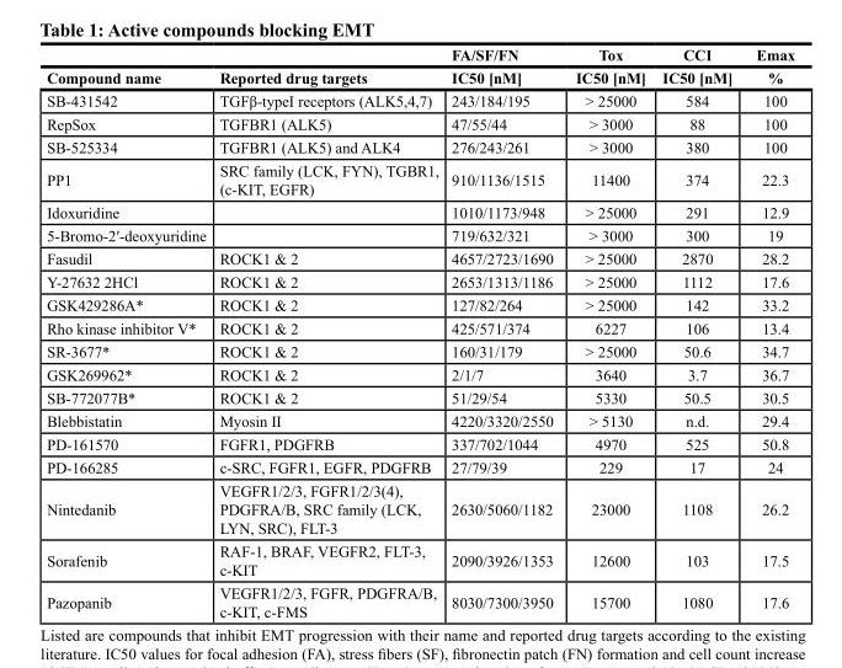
<table><thead><tr><td rowspan="2">Compound name</td><td rowspan="2">Reported drug targets</td><td rowspan="2">FA/SF/FN IC50 [nM]</td><td rowspan="2">Tox IC50 [nM]</td><td rowspan="2">CCI IC50 [nM]</td><td rowspan="2">Emax %</td></tr><tr></tr></thead><tbody><tr><td>SB-431542</td><td>TGFβ-typeI receptors (ALK5,4,7)</td><td>243/184/195</td><td>&gt; 25000</td><td>584</td><td>100</td></tr><tr><td>RepSox</td><td>TGFBR1 (ALK5)</td><td>47/55/44</td><td>&gt; 3000</td><td>88</td><td>100</td></tr><tr><td>SB-525334</td><td>TGFBR1 (ALK5) and ALK4</td><td>276/243/261</td><td>&gt; 3000</td><td>380</td><td>100</td></tr><tr><td>PP1</td><td>SRC family (LCK, FYN), TGBR1, (c-KIT, EGFR)</td><td>910/1136/1515</td><td>11400</td><td>374</td><td>22.3</td></tr><tr><td>Idoxuridine</td><td></td><td>1010/1173/948</td><td>&gt; 25000</td><td>291</td><td>12.9</td></tr><tr><td>5-Bromo-2′-deoxyuridine</td><td></td><td>719/632/321</td><td>&gt; 3000</td><td>300</td><td>19</td></tr><tr><td>Fasudil</td><td>ROCK1 &amp; 2</td><td>4657/2723/1690</td><td>&gt; 25000</td><td>2870</td><td>28.2</td></tr><tr><td>Y-27632 2HCl</td><td>ROCK1 &amp; 2</td><td>2653/1313/1186</td><td>&gt; 25000</td><td>1112</td><td>17.6</td></tr><tr><td>GSK429286A*</td><td>ROCK1 &amp; 2</td><td>127/82/264</td><td>&gt; 25000</td><td>142</td><td>33.2</td></tr><tr><td>Rho kinase inhibitor V*</td><td>ROCK1 &amp; 2</td><td>425/571/374</td><td>6227</td><td>106</td><td>13.4</td></tr><tr><td>SR-3677*</td><td>ROCK1 &amp; 2</td><td>160/31/179</td><td>&gt; 25000</td><td>50.6</td><td>34.7</td></tr><tr><td>GSK269962*</td><td>ROCK1 &amp; 2</td><td>2/1/7</td><td>3640</td><td>3.7</td><td>36.7</td></tr><tr><td>SB-772077B*</td><td>ROCK1 &amp; 2</td><td>51/29/54</td><td>5330</td><td>50.5</td><td>30.5</td></tr><tr><td>Blebbistatin</td><td>Myosin II</td><td>4220/3320/2550</td><td>&gt; 5130</td><td>n.d.</td><td>29.4</td></tr><tr><td>PD-161570</td><td>FGFR1, PDGFRB</td><td>337/702/1044</td><td>4970</td><td>525</td><td>50.8</td></tr><tr><td>PD-166285</td><td>c-SRC, FGFR1, EGFR, PDGFRB</td><td>27/79/39</td><td>229</td><td>17</td><td>24</td></tr><tr><td>Nintedanib</td><td>VEGFR1/2/3, FGFR1/2/3(4), PDGFRA/B, SRC family (LCK, LYN, SRC), FLT-3</td><td>2630/5060/1182</td><td>23000</td><td>1108</td><td>26.2</td></tr><tr><td>Sorafenib</td><td>RAF-1, BRAF, VEGFR2, FLT-3, c-KIT</td><td>2090/3926/1353</td><td>12600</td><td>103</td><td>17.5</td></tr><tr><td>Pazopanib</td><td>VEGFR1/2/3, FGFR, PDGFRA/B, c-KIT, c-FMS</td><td>8030/7300/3950</td><td>15700</td><td>1080</td><td>17.6</td></tr></tbody></table>